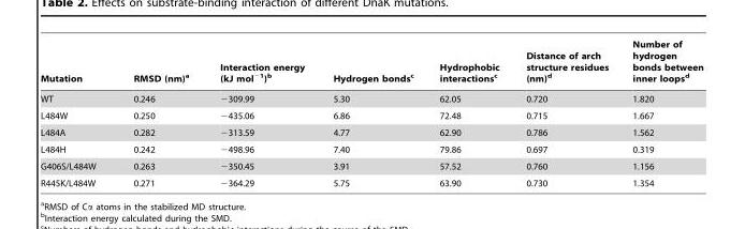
<table><thead><tr><td>Mutation</td><td>RMSD (nm)<sup>a</sup></td><td>Interaction energy (kJ mol<sup>−1</sup>)<sup>b</sup></td><td>Hydrogen bonds<sup>c</sup></td><td>Hydrophobic interactions<sup>c</sup></td><td>Distance of arch structure residues (nm)<sup>d</sup></td><td>Number of hydrogen bonds between inner loops<sup>d</sup></td></tr></thead><tbody><tr><td>WT</td><td>0.246</td><td>−309.99</td><td>5.30</td><td>62.05</td><td>0.720</td><td>1.820</td></tr><tr><td>L484W</td><td>0.250</td><td>−435.06</td><td>6.86</td><td>72.48</td><td>0.715</td><td>1.667</td></tr><tr><td>L484A</td><td>0.282</td><td>−313.59</td><td>4.77</td><td>62.90</td><td>0.786</td><td>1.562</td></tr><tr><td>L484H</td><td>0.242</td><td>−498.96</td><td>7.40</td><td>79.86</td><td>0.697</td><td>0.319</td></tr><tr><td>G406S/L484W</td><td>0.263</td><td>−350.45</td><td>3.91</td><td>57.52</td><td>0.760</td><td>1.156</td></tr><tr><td>R445K/L484W</td><td>0.271</td><td>−364.29</td><td>5.75</td><td>63.90</td><td>0.730</td><td>1.354</td></tr></tbody></table>